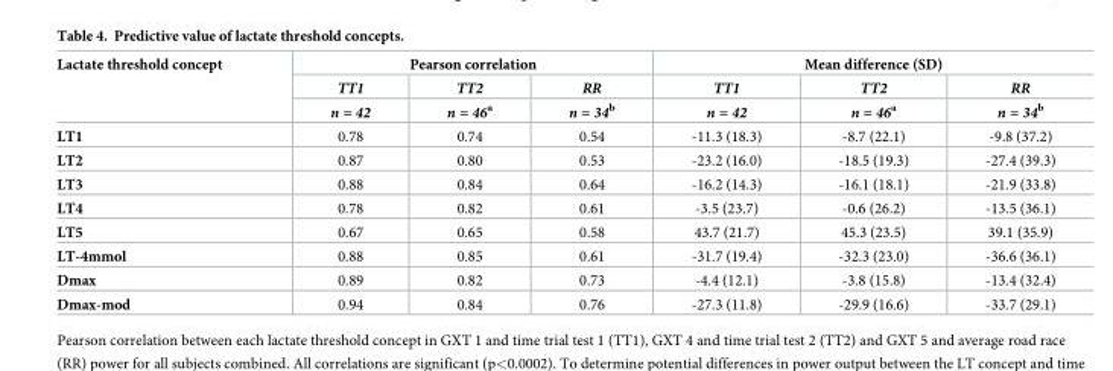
<table><thead><tr><td rowspan="3">Lactate threshold concept</td><td colspan="3">Pearson correlation</td><td colspan="3">Mean difference (SD)</td></tr><tr><td rowspan="2">TT1 n = 42</td><td rowspan="2">TT2 n = 46<sup>a</sup></td><td rowspan="2">RR n = 34<sup>b</sup></td><td rowspan="2">TT1 n = 42</td><td rowspan="2">TT2 n = 46<sup>a</sup></td><td rowspan="2">RR n = 34<sup>b</sup></td></tr><tr></tr></thead><tbody><tr><td>LT1</td><td>0.78</td><td>0.74</td><td>0.54</td><td>-11.3 (18.3)</td><td>-8.7 (22.1)</td><td>-9.8 (37.2)</td></tr><tr><td>LT2</td><td>0.87</td><td>0.80</td><td>0.53</td><td>-23.2 (16.0)</td><td>-18.5 (19.3)</td><td>-27.4 (39.3)</td></tr><tr><td>LT3</td><td>0.88</td><td>0.84</td><td>0.64</td><td>-16.2 (14.3)</td><td>-16.1 (18.1)</td><td>-21.9 (33.8)</td></tr><tr><td>LT4</td><td>0.78</td><td>0.82</td><td>0.61</td><td>-3.5 (23.7)</td><td>-0.6 (26.2)</td><td>-13.5 (36.1)</td></tr><tr><td>LT5</td><td>0.67</td><td>0.65</td><td>0.58</td><td>43.7 (21.7)</td><td>45.3 (23.5)</td><td>39.1 (35.9)</td></tr><tr><td>LT-4mmol</td><td>0.88</td><td>0.85</td><td>0.61</td><td>-31.7 (19.4)</td><td>-32.3 (23.0)</td><td>-36.6 (36.1)</td></tr><tr><td>Dmax</td><td>0.89</td><td>0.82</td><td>0.73</td><td>-4.4 (12.1)</td><td>-3.8 (15.8)</td><td>-13.4 (32.4)</td></tr><tr><td>Dmax-mod</td><td>0.94</td><td>0.84</td><td>0.76</td><td>-27.3 (11.8)</td><td>-29.9 (16.6)</td><td>-33.7 (29.1)</td></tr></tbody></table>